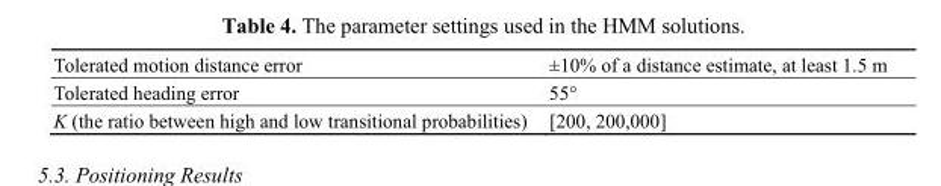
<table><tbody><tr><td>Tolerated motion distance error</td><td>±10% of a distance estimate, at least 1.5 m</td></tr><tr><td>Tolerated heading error</td><td>55°</td></tr><tr><td>K (the ratio between high and low transitional probabilities)</td><td>[200, 200,000]</td></tr></tbody></table>